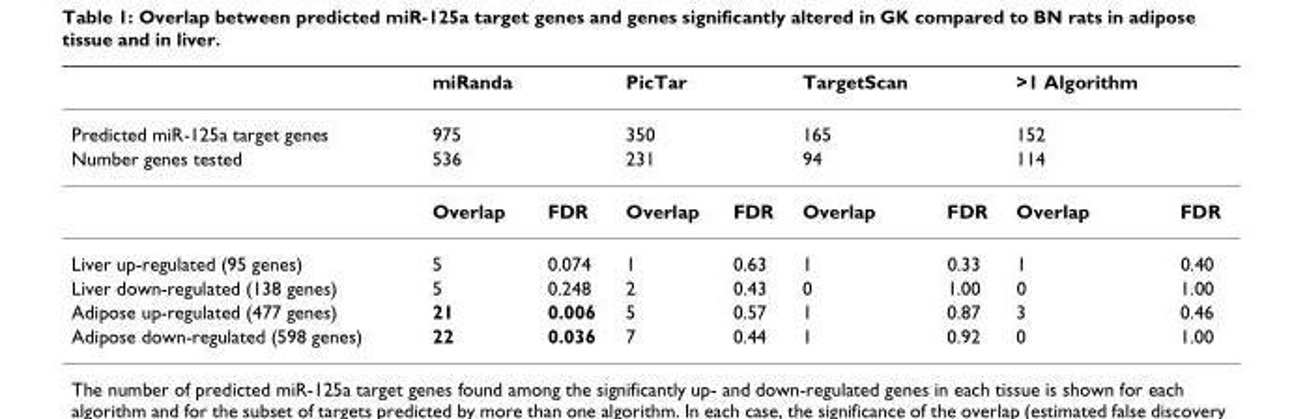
<table><thead><tr><td></td><td>miRanda</td><td></td><td>PicTar</td><td></td><td>TargetScan</td><td></td><td>&gt;1 Algorithm</td><td></td></tr></thead><tbody><tr><td>Predicted miR-125a target genes</td><td>975</td><td></td><td>350</td><td></td><td>165</td><td></td><td>152</td><td></td></tr><tr><td rowspan="2">Number genes tested</td><td>536</td><td></td><td>231</td><td></td><td>94</td><td></td><td>114</td><td></td></tr><tr><td>Overlap</td><td>FDR</td><td>Overlap</td><td>FDR</td><td>Overlap</td><td>FDR</td><td>Overlap</td><td>FDR</td></tr><tr><td>Liver up-regulated (95 genes)</td><td>5</td><td>0.074</td><td>1</td><td>0.63</td><td>1</td><td>0.33</td><td>1</td><td>0.40</td></tr><tr><td>Liver down-regulated (138 genes)</td><td>5</td><td>0.248</td><td>2</td><td>0.43</td><td>0</td><td>1.00</td><td>0</td><td>1.00</td></tr><tr><td>Adipose up-regulated (477 genes)</td><td>21</td><td>0.006</td><td>5</td><td>0.57</td><td>1</td><td>0.87</td><td>3</td><td>0.46</td></tr><tr><td>Adipose down-regulated (598 genes)</td><td>22</td><td>0.036</td><td>7</td><td>0.44</td><td>1</td><td>0.92</td><td>0</td><td>1.00</td></tr></tbody></table>